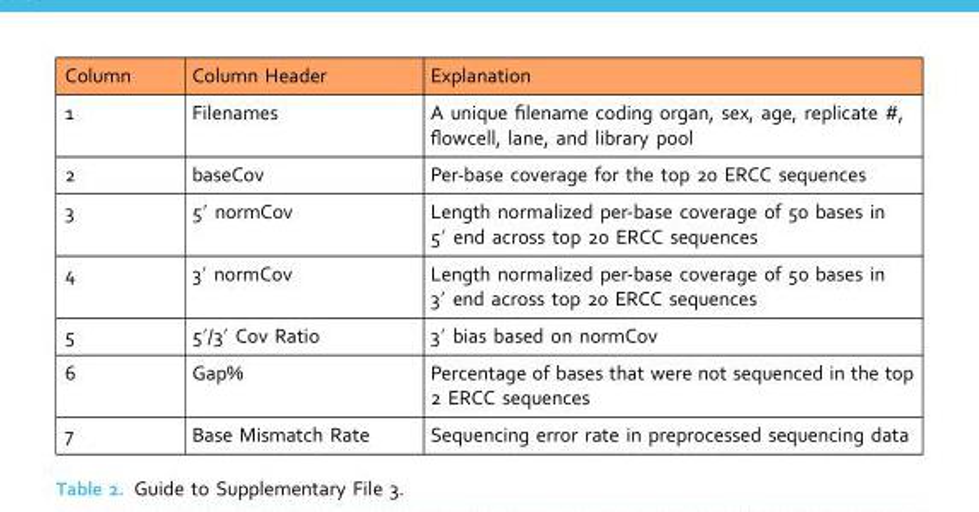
<table><thead><tr><td>Column</td><td>Column Header</td><td>Explanation</td></tr></thead><tbody><tr><td>1</td><td>Filenames</td><td>A unique filename coding organ, sex, age, replicate #, flowcell, lane, and library pool</td></tr><tr><td>2</td><td>baseCov</td><td>Per-base coverage for the top 20 ERCC sequences</td></tr><tr><td>3</td><td>5′ normCov</td><td>Length normalized per-base coverage of 50 bases in 5′ end across top 20 ERCC sequences</td></tr><tr><td>4</td><td>3′ normCov</td><td>Length normalized per-base coverage of 50 bases in 3′ end across top 20 ERCC sequences</td></tr><tr><td>5</td><td>5′/3′ Cov Ratio</td><td>3′ bias based on normCov</td></tr><tr><td>6</td><td>Gap%</td><td>Percentage of bases that were not sequenced in the top 2 ERCC sequences</td></tr><tr><td>7</td><td>Base Mismatch Rate</td><td>Sequencing error rate in preprocessed sequencing data</td></tr></tbody></table>